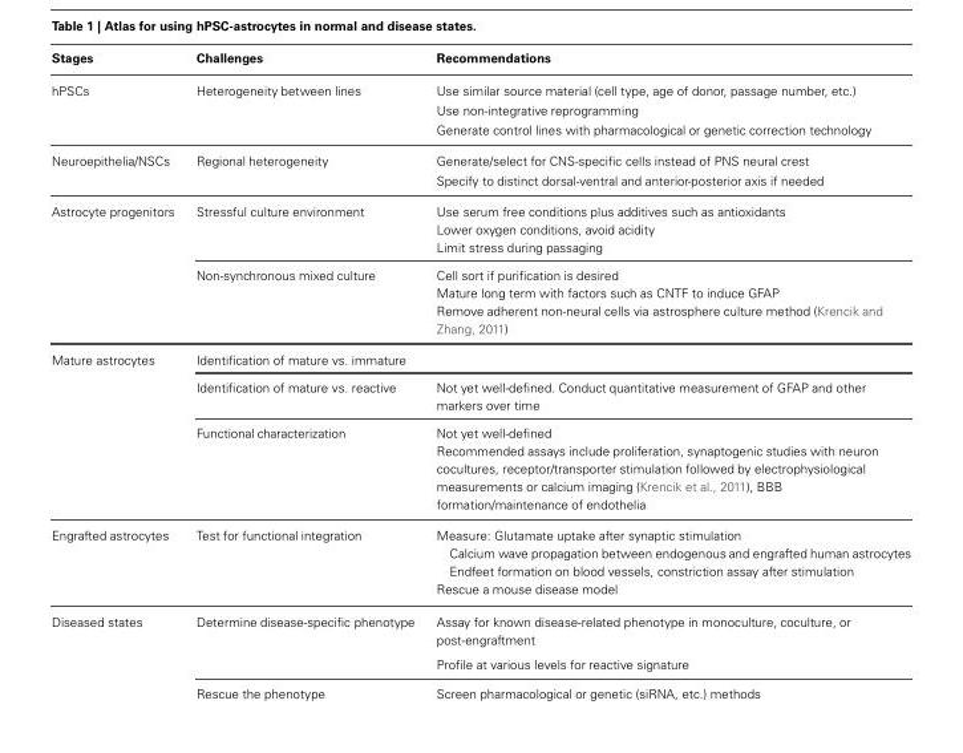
<table><thead><tr><td>Stages</td><td>Challenges</td><td>Recommendations</td></tr></thead><tbody><tr><td rowspan="3">hPSCs</td><td>Heterogeneity between lines</td><td>Use similar source material (cell type, age of donor, passage number, etc.)</td></tr><tr><td></td><td>Use non-integrative reprogramming</td></tr><tr><td></td><td>Generate control lines with pharmacological or genetic correction technology</td></tr><tr><td rowspan="2">Neuroepithelia/NSCs</td><td>Regional heterogeneity</td><td>Generate/select for CNS-specific cells instead of PNS neural crest</td></tr><tr><td></td><td>Specify to distinct dorsal-ventral and anterior-posterior axis if needed</td></tr><tr><td rowspan="6">Astrocyte progenitors</td><td>Stressful culture environment</td><td>Use serum free conditions plus additives such as antioxidants</td></tr><tr><td></td><td>Lower oxygen conditions, avoid acidity</td></tr><tr><td></td><td>Limit stress during passaging</td></tr><tr><td>Non-synchronous mixed culture</td><td>Cell sort if purification is desired</td></tr><tr><td></td><td>Mature long term with factors such as CNTF to induce GFAP</td></tr><tr><td></td><td>Remove adherent non-neural cells via astrosphere culture method (Krencik and Zhang, 2011)</td></tr><tr><td rowspan="4">Mature astrocytes</td><td>Identification of mature vs. immature</td><td></td></tr><tr><td>Identification of mature vs. reactive</td><td>Not yet well-defined. Conduct quantitative measurement of GFAP and other markers over time</td></tr><tr><td>Functional characterization</td><td>Not yet well-defined</td></tr><tr><td></td><td>Recommended assays include proliferation, synaptogenic studies with neuron cocultures, receptor/transporter stimulation followed by electrophysiological measurements or calcium imaging (Krencik et al., 2011), BBB formation/maintenance of endothelia</td></tr><tr><td rowspan="4">Engrafted astrocytes</td><td>Test for functional integration</td><td>Measure: Glutamate uptake after synaptic stimulation</td></tr><tr><td></td><td>Calcium wave propagation between endogenous and engrafted human astrocytes</td></tr><tr><td></td><td>Endfeet formation on blood vessels, constriction assay after stimulation</td></tr><tr><td></td><td>Rescue a mouse disease model</td></tr><tr><td rowspan="3">Diseased states</td><td>Determine disease-specific phenotype</td><td>Assay for known disease-related phenotype in monoculture, coculture, or post-engraftment</td></tr><tr><td></td><td>Profile at various levels for reactive signature</td></tr><tr><td>Rescue the phenotype</td><td>Screen pharmacological or genetic (siRNA, etc.) methods</td></tr></tbody></table>